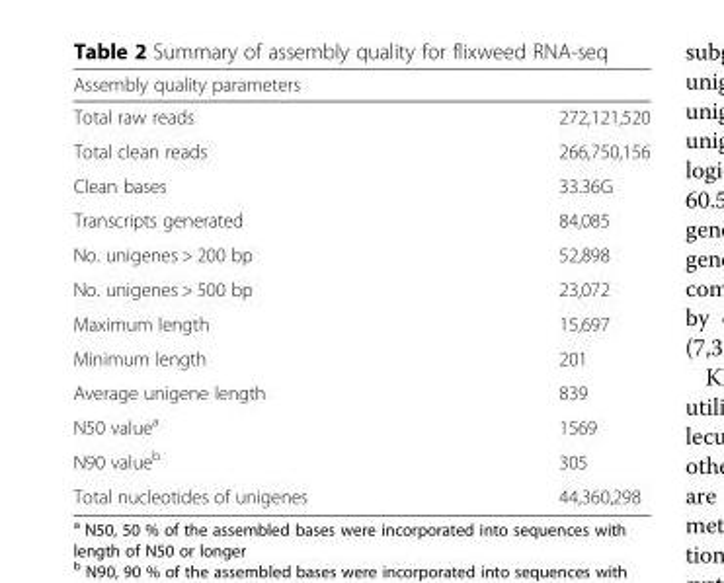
<table><thead><tr><td>Assembly quality parameters</td><td></td></tr></thead><tbody><tr><td>Total raw reads</td><td>272,121,520</td></tr><tr><td>Total clean reads</td><td>266,750,156</td></tr><tr><td>Clean bases</td><td>33.36G</td></tr><tr><td>Transcripts generated</td><td>84,085</td></tr><tr><td>No. unigenes &gt; 200 bp</td><td>52,898</td></tr><tr><td>No. unigenes &gt; 500 bp</td><td>23,072</td></tr><tr><td>Maximum length</td><td>15,697</td></tr><tr><td>Minimum length</td><td>201</td></tr><tr><td>Average unigene length</td><td>839</td></tr><tr><td>N50 value<sup>a</sup></td><td>1569</td></tr><tr><td>N90 value<sup>b</sup></td><td>305</td></tr><tr><td>Total nucleotides of unigenes</td><td>44,360,298</td></tr></tbody></table>